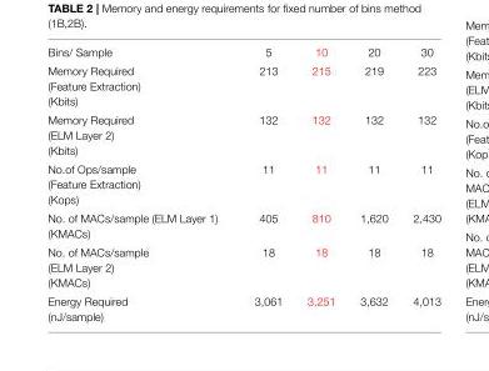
<table><tbody><tr><td>Bins/ Sample</td><td>5</td><td>10</td><td>20</td><td>30</td></tr><tr><td>Memory Required (Feature Extraction) (Kbits)</td><td>213</td><td>215</td><td>219</td><td>223</td></tr><tr><td>Memory Required (ELM Layer 2) (Kbits)</td><td>132</td><td>132</td><td>132</td><td>132</td></tr><tr><td>No.of Ops/sample (Feature Extraction) (Kops)</td><td>11</td><td>11</td><td>11</td><td>11</td></tr><tr><td>No. of MACs/sample (ELM Layer 1) (KMACs)</td><td>405</td><td>810</td><td>1,620</td><td>2,430</td></tr><tr><td>No. of MACs/sample (ELM Layer 2) (KMACs)</td><td>18</td><td>18</td><td>18</td><td>18</td></tr><tr><td>Energy Required (nJ/sample)</td><td>3,061</td><td>3,251</td><td>3,632</td><td>4,013</td></tr></tbody></table>